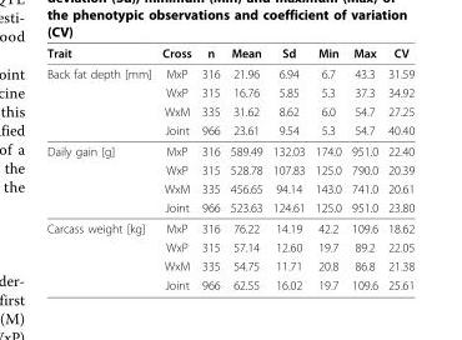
<table><thead><tr><td>Trait</td><td>Cross</td><td>n</td><td>Mean</td><td>Sd</td><td>Min</td><td>Max</td><td>CV</td></tr></thead><tbody><tr><td rowspan="4">Back fat depth [mm]</td><td>MxP</td><td>316</td><td>21.96</td><td>6.94</td><td>6.7</td><td>43.3</td><td>31.59</td></tr><tr><td>WxP</td><td>315</td><td>16.76</td><td>5.85</td><td>5.3</td><td>37.3</td><td>34.92</td></tr><tr><td>WxM</td><td>335</td><td>31.62</td><td>8.62</td><td>6.0</td><td>54.7</td><td>27.25</td></tr><tr><td>Joint</td><td>966</td><td>23.61</td><td>9.54</td><td>5.3</td><td>54.7</td><td>40.40</td></tr><tr><td rowspan="4">Daily gain [g]</td><td>MxP</td><td>316</td><td>589.49</td><td>132.03</td><td>174.0</td><td>951.0</td><td>22.40</td></tr><tr><td>WxP</td><td>315</td><td>528.78</td><td>107.83</td><td>125.0</td><td>790.0</td><td>20.39</td></tr><tr><td>WxM</td><td>335</td><td>456.65</td><td>94.14</td><td>143.0</td><td>741.0</td><td>20.61</td></tr><tr><td>Joint</td><td>966</td><td>523.63</td><td>124.61</td><td>125.0</td><td>951.0</td><td>23.80</td></tr><tr><td rowspan="4">Carcass weight [kg]</td><td>MxP</td><td>316</td><td>76.22</td><td>14.19</td><td>42.2</td><td>109.6</td><td>18.62</td></tr><tr><td>WxP</td><td>315</td><td>57.14</td><td>12.60</td><td>19.7</td><td>89.2</td><td>22.05</td></tr><tr><td>WxM</td><td>335</td><td>54.75</td><td>11.71</td><td>20.8</td><td>86.8</td><td>21.38</td></tr><tr><td>Joint</td><td>966</td><td>62.55</td><td>16.02</td><td>19.7</td><td>109.6</td><td>25.61</td></tr></tbody></table>